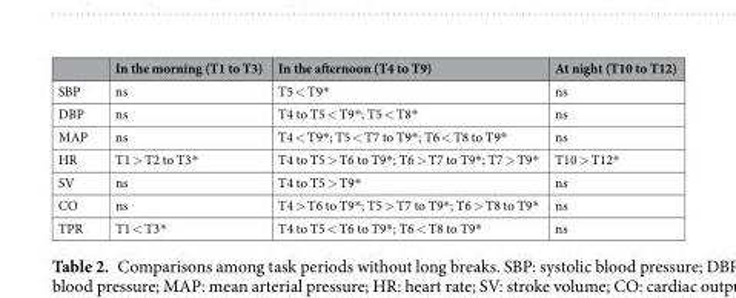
<table><thead><tr><td></td><td>In the morning (T1 to T3)</td><td>In the afternoon (T4 to T9)</td><td>At night (T10 to T12)</td></tr></thead><tbody><tr><td>SBP</td><td>ns</td><td>T5 &lt; T9*</td><td>ns</td></tr><tr><td>DBP</td><td>ns</td><td>T4 to T5 &lt; T9*; T5 &lt; T8*</td><td>ns</td></tr><tr><td>MAP</td><td>ns</td><td>T4 &lt; T9*; T5 &lt; T7 to T9*; T6 &lt; T8 to T9*</td><td>ns</td></tr><tr><td>HR</td><td>T1 &gt; T2 to T3*</td><td>T4 to T5 &gt; T6 to T9*; T6 &gt; T7 to T9*; T7 &gt; T9*</td><td>T10 &gt; T12*</td></tr><tr><td>SV</td><td>ns</td><td>T4 to T5 &gt; T9*</td><td>ns</td></tr><tr><td>CO</td><td>ns</td><td>T4 &gt; T6 to T9*; T5 &gt; T7 to T9*; T6 &gt; T8 to T9*</td><td>ns</td></tr><tr><td>TPR</td><td>T1 &lt; T3*</td><td>T4 to T5 &lt; T6 to T9*; T6 &lt; T8 to T9*</td><td>ns</td></tr></tbody></table>